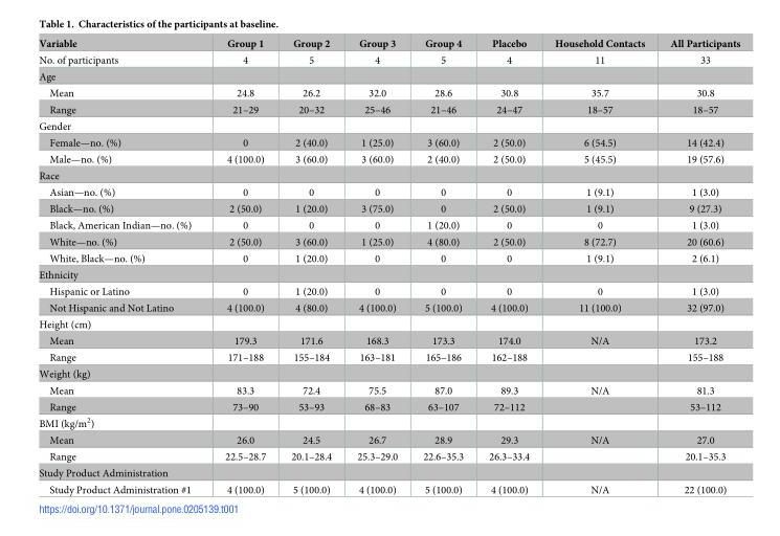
<table><thead><tr><td>Variable</td><td>Group 1</td><td>Group 2</td><td>Group 3</td><td>Group 4</td><td>Placebo</td><td>Household Contacts</td><td>All Participants</td></tr></thead><tbody><tr><td>No. of participants</td><td>4</td><td>5</td><td>4</td><td>5</td><td>4</td><td>11</td><td>33</td></tr><tr><td colspan="8">Age</td></tr><tr><td>Mean</td><td>24.8</td><td>26.2</td><td>32.0</td><td>28.6</td><td>30.8</td><td>35.7</td><td>30.8</td></tr><tr><td>Range</td><td>21–29</td><td>20–32</td><td>25–46</td><td>21–46</td><td>24–47</td><td>18–57</td><td>18–57</td></tr><tr><td colspan="8">Gender</td></tr><tr><td>Female—no. (%)</td><td>0</td><td>2 (40.0)</td><td>1 (25.0)</td><td>3 (60.0)</td><td>2 (50.0)</td><td>6 (54.5)</td><td>14 (42.4)</td></tr><tr><td>Male—no. (%)</td><td>4 (100.0)</td><td>3 (60.0)</td><td>3 (60.0)</td><td>2 (40.0)</td><td>2 (50.0)</td><td>5 (45.5)</td><td>19 (57.6)</td></tr><tr><td colspan="8">Race</td></tr><tr><td>Asian—no. (%)</td><td>0</td><td>0</td><td>0</td><td>0</td><td>0</td><td>1 (9.1)</td><td>1 (3.0)</td></tr><tr><td>Black—no. (%)</td><td>2 (50.0)</td><td>1 (20.0)</td><td>3 (75.0)</td><td>0</td><td>2 (50.0)</td><td>1 (9.1)</td><td>9 (27.3)</td></tr><tr><td>Black, American Indian—no. (%)</td><td>0</td><td>0</td><td>0</td><td>1 (20.0)</td><td>0</td><td>0</td><td>1 (3.0)</td></tr><tr><td>White—no. (%)</td><td>2 (50.0)</td><td>3 (60.0)</td><td>1 (25.0)</td><td>4 (80.0)</td><td>2 (50.0)</td><td>8 (72.7)</td><td>20 (60.6)</td></tr><tr><td>White, Black—no. (%)</td><td>0</td><td>1 (20.0)</td><td>0</td><td>0</td><td>0</td><td>1 (9.1)</td><td>2 (6.1)</td></tr><tr><td colspan="8">Ethnicity</td></tr><tr><td>Hispanic or Latino</td><td>0</td><td>1 (20.0)</td><td>0</td><td>0</td><td>0</td><td>0</td><td>1 (3.0)</td></tr><tr><td>Not Hispanic and Not Latino</td><td>4 (100.0)</td><td>4 (80.0)</td><td>4 (100.0)</td><td>5 (100.0)</td><td>4 (100.0)</td><td>11 (100.0)</td><td>32 (97.0)</td></tr><tr><td colspan="8">Height (cm)</td></tr><tr><td>Mean</td><td>179.3</td><td>171.6</td><td>168.3</td><td>173.3</td><td>174.0</td><td>N/A</td><td>173.2</td></tr><tr><td>Range</td><td>171–188</td><td>155–184</td><td>163–181</td><td>165–186</td><td>162–188</td><td></td><td>155–188</td></tr><tr><td colspan="8">Weight (kg)</td></tr><tr><td>Mean</td><td>83.3</td><td>72.4</td><td>75.5</td><td>87.0</td><td>89.3</td><td>N/A</td><td>81.3</td></tr><tr><td>Range</td><td>73–90</td><td>53–93</td><td>68–83</td><td>63–107</td><td>72–112</td><td></td><td>53–112</td></tr><tr><td colspan="8">BMI (kg/m<sup>2</sup>)</td></tr><tr><td>Mean</td><td>26.0</td><td>24.5</td><td>26.7</td><td>28.9</td><td>29.3</td><td>N/A</td><td>27.0</td></tr><tr><td>Range</td><td>22.5–28.7</td><td>20.1–28.4</td><td>25.3–29.0</td><td>22.6–35.3</td><td>26.3–33.4</td><td></td><td>20.1–35.3</td></tr><tr><td colspan="8">Study Product Administration</td></tr><tr><td>Study Product Administration #1</td><td>4 (100.0)</td><td>5 (100.0)</td><td>4 (100.0)</td><td>5 (100.0)</td><td>4 (100.0)</td><td>N/A</td><td>22 (100.0)</td></tr></tbody></table>